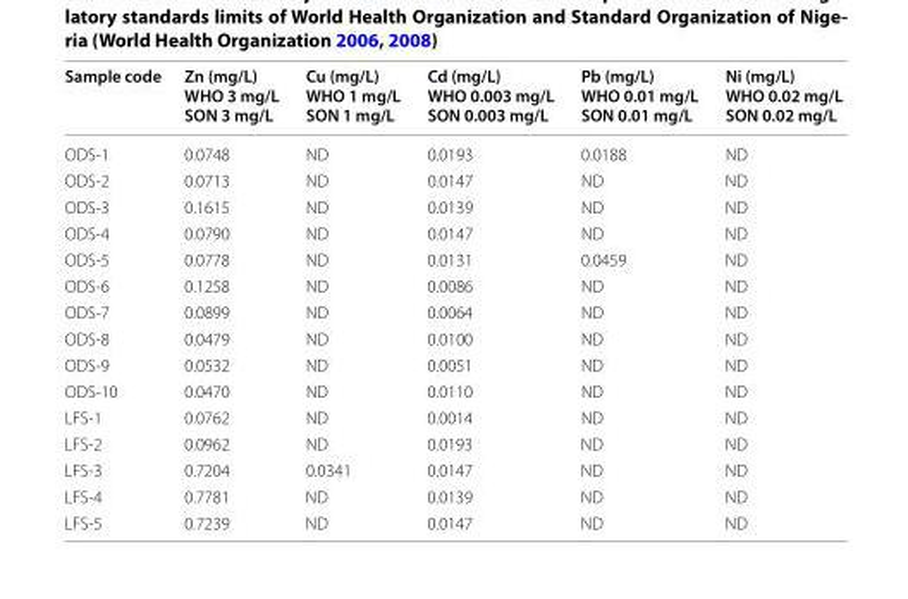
<table><thead><tr><td>Sample code</td><td>Zn (mg/L) WHO 3 mg/L SON 3 mg/L</td><td>Cu (mg/L) WHO 1 mg/L SON 1 mg/L</td><td>Cd (mg/L) WHO 0.003 mg/L SON 0.003 mg/L</td><td>Pb (mg/L) WHO 0.01 mg/L SON 0.01 mg/L</td><td>Ni (mg/L) WHO 0.02 mg/L SON 0.02 mg/L</td></tr></thead><tbody><tr><td>ODS-1</td><td>0.0748</td><td>ND</td><td>0.0193</td><td>0.0188</td><td>ND</td></tr><tr><td>ODS-2</td><td>0.0713</td><td>ND</td><td>0.0147</td><td>ND</td><td>ND</td></tr><tr><td>ODS-3</td><td>0.1615</td><td>ND</td><td>0.0139</td><td>ND</td><td>ND</td></tr><tr><td>ODS-4</td><td>0.0790</td><td>ND</td><td>0.0147</td><td>ND</td><td>ND</td></tr><tr><td>ODS-5</td><td>0.0778</td><td>ND</td><td>0.0131</td><td>0.0459</td><td>ND</td></tr><tr><td>ODS-6</td><td>0.1258</td><td>ND</td><td>0.0086</td><td>ND</td><td>ND</td></tr><tr><td>ODS-7</td><td>0.0899</td><td>ND</td><td>0.0064</td><td>ND</td><td>ND</td></tr><tr><td>ODS-8</td><td>0.0479</td><td>ND</td><td>0.0100</td><td>ND</td><td>ND</td></tr><tr><td>ODS-9</td><td>0.0532</td><td>ND</td><td>0.0051</td><td>ND</td><td>ND</td></tr><tr><td>ODS-10</td><td>0.0470</td><td>ND</td><td>0.0110</td><td>ND</td><td>ND</td></tr><tr><td>LFS-1</td><td>0.0762</td><td>ND</td><td>0.0014</td><td>ND</td><td>ND</td></tr><tr><td>LFS-2</td><td>0.0962</td><td>ND</td><td>0.0193</td><td>ND</td><td>ND</td></tr><tr><td>LFS-3</td><td>0.7204</td><td>0.0341</td><td>0.0147</td><td>ND</td><td>ND</td></tr><tr><td>LFS-4</td><td>0.7781</td><td>ND</td><td>0.0139</td><td>ND</td><td>ND</td></tr><tr><td>LFS-5</td><td>0.7239</td><td>ND</td><td>0.0147</td><td>ND</td><td>ND</td></tr></tbody></table>